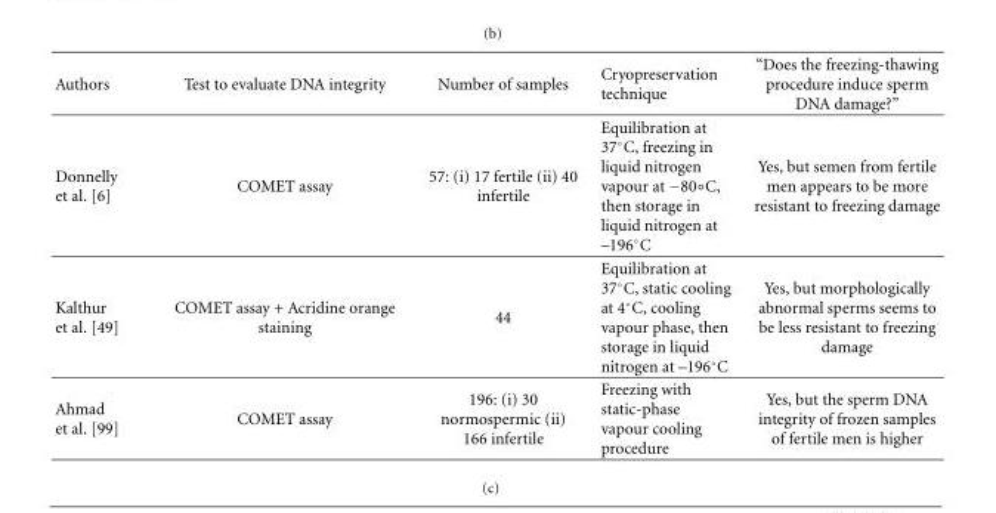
<table><thead><tr><td>Authors</td><td>Test to evaluate DNA integrity</td><td>Number of samples</td><td>Cryopreservation technique</td><td>“Does the freezing-thawing procedure induce sperm DNA damage?”</td></tr></thead><tbody><tr><td>Donnelly et al. [6]</td><td>COMET assay</td><td>57: (i) 17 fertile (ii) 40 infertile</td><td>Equilibration at 37◦C, freezing in liquid nitrogen vapour at −80◦C, then storage in liquid nitrogen at –196◦C</td><td>Yes, but semen from fertile men appears to be more resistant to freezing damage</td></tr><tr><td>Kalthur et al. [49]</td><td>COMET assay + Acridine orange staining</td><td>44</td><td>Equilibration at 37◦C, static cooling at 4◦C, cooling vapour phase, then storage in liquid nitrogen at –196◦C</td><td>Yes, but morphologically abnormal sperms seems to be less resistant to freezing damage</td></tr><tr><td>Ahmad et al. [99]</td><td>COMET assay</td><td>196: (i) 30 normospermic (ii) 166 infertile</td><td>Freezing with static-phase vapour cooling procedure</td><td>Yes, but the sperm DNA integrity of frozen samples of fertile men is higher</td></tr></tbody></table>